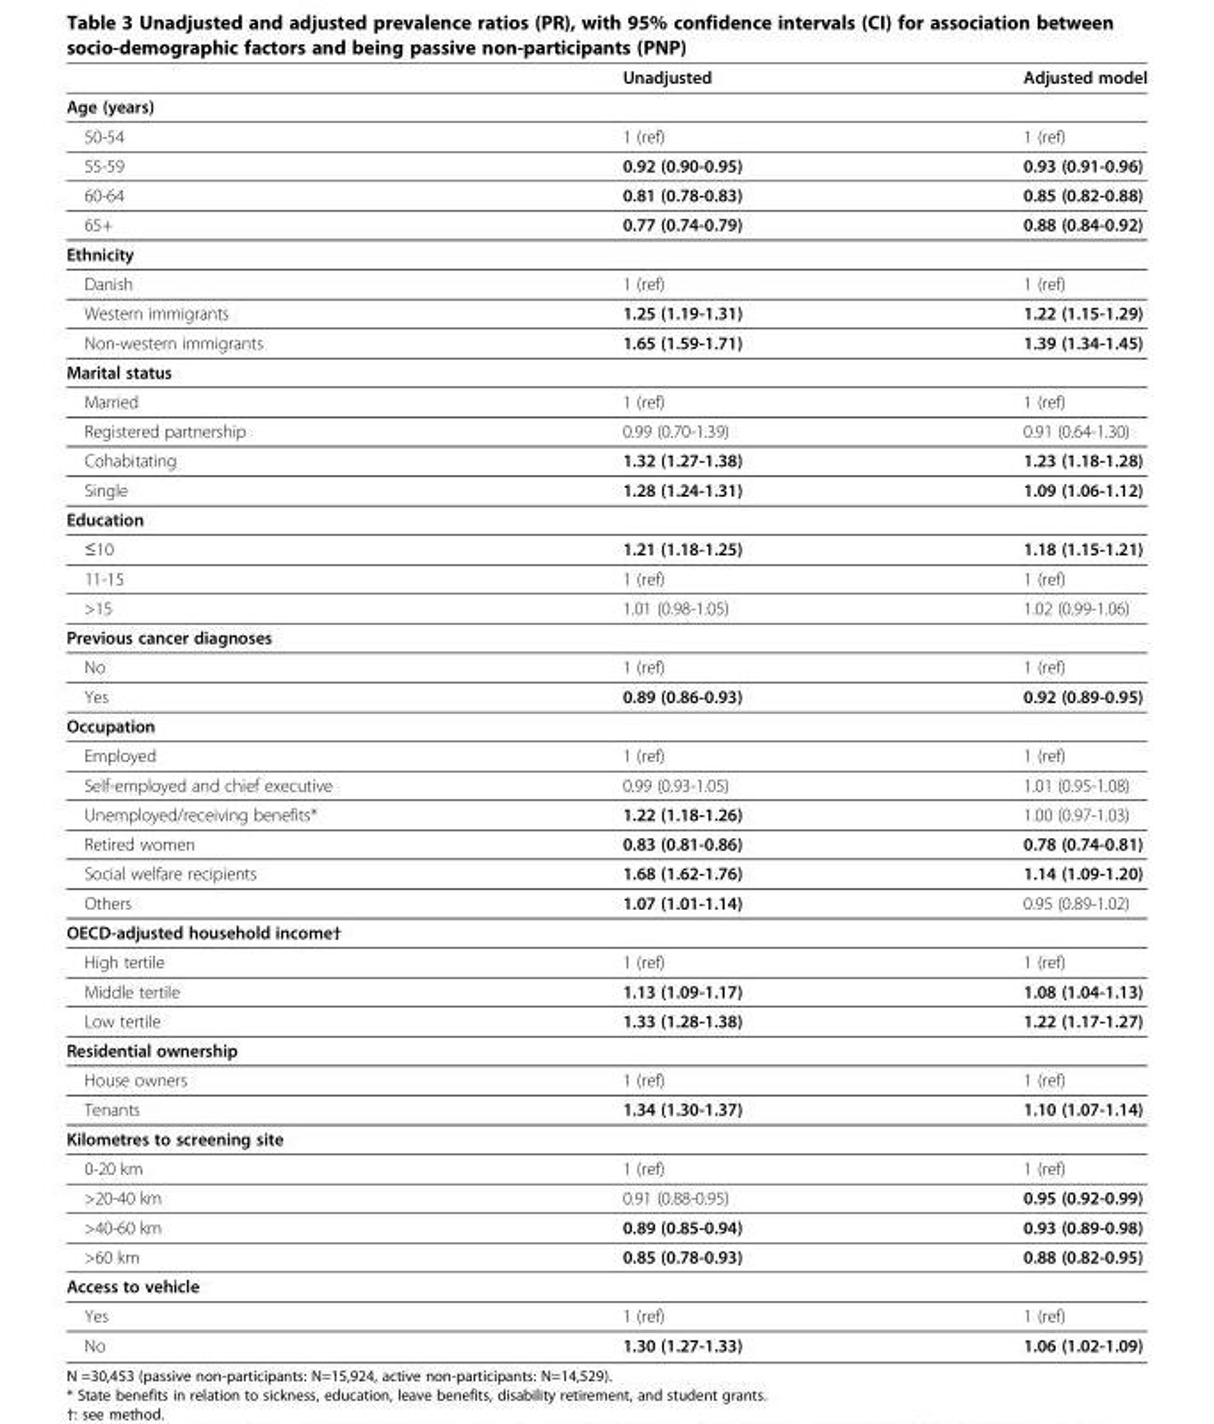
<table><thead><tr><td></td><td>Unadjusted</td><td>Adjusted model</td></tr></thead><tbody><tr><td colspan="3">Age (years)</td></tr><tr><td>50-54</td><td>1 (ref)</td><td>1 (ref)</td></tr><tr><td>55-59</td><td>0.92 (0.90-0.95)</td><td>0.93 (0.91-0.96)</td></tr><tr><td>60-64</td><td>0.81 (0.78-0.83)</td><td>0.85 (0.82-0.88)</td></tr><tr><td>65+</td><td>0.77 (0.74-0.79)</td><td>0.88 (0.84-0.92)</td></tr><tr><td colspan="3">Ethnicity</td></tr><tr><td>Danish</td><td>1 (ref)</td><td>1 (ref)</td></tr><tr><td>Western immigrants</td><td>1.25 (1.19-1.31)</td><td>1.22 (1.15-1.29)</td></tr><tr><td>Non-western immigrants</td><td>1.65 (1.59-1.71)</td><td>1.39 (1.34-1.45)</td></tr><tr><td colspan="3">Marital status</td></tr><tr><td>Married</td><td>1 (ref)</td><td>1 (ref)</td></tr><tr><td>Registered partnership</td><td>0.99 (0.70-1.39)</td><td>0.91 (0.64-1.30)</td></tr><tr><td>Cohabitating</td><td>1.32 (1.27-1.38)</td><td>1.23 (1.18-1.28)</td></tr><tr><td>Single</td><td>1.28 (1.24-1.31)</td><td>1.09 (1.06-1.12)</td></tr><tr><td colspan="3">Education</td></tr><tr><td>≤10</td><td>1.21 (1.18-1.25)</td><td>1.18 (1.15-1.21)</td></tr><tr><td>11-15</td><td>1 (ref)</td><td>1 (ref)</td></tr><tr><td>&gt;15</td><td>1.01 (0.98-1.05)</td><td>1.02 (0.99-1.06)</td></tr><tr><td colspan="3">Previous cancer diagnoses</td></tr><tr><td>No</td><td>1 (ref)</td><td>1 (ref)</td></tr><tr><td>Yes</td><td>0.89 (0.86-0.93)</td><td>0.92 (0.89-0.95)</td></tr><tr><td colspan="3">Occupation</td></tr><tr><td>Employed</td><td>1 (ref)</td><td>1 (ref)</td></tr><tr><td>Self-employed and chief executive</td><td>0.99 (0.93-1.05)</td><td>1.01 (0.95-1.08)</td></tr><tr><td>Unemployed/receiving benefits*</td><td>1.22 (1.18-1.26)</td><td>1.00 (0.97-1.03)</td></tr><tr><td>Retired women</td><td>0.83 (0.81-0.86)</td><td>0.78 (0.74-0.81)</td></tr><tr><td>Social welfare recipients</td><td>1.68 (1.62-1.76)</td><td>1.14 (1.09-1.20)</td></tr><tr><td>Others</td><td>1.07 (1.01-1.14)</td><td>0.95 (0.89-1.02)</td></tr><tr><td colspan="3">OECD-adjusted household income†</td></tr><tr><td>High tertile</td><td>1 (ref)</td><td>1 (ref)</td></tr><tr><td>Middle tertile</td><td>1.13 (1.09-1.17)</td><td>1.08 (1.04-1.13)</td></tr><tr><td>Low tertile</td><td>1.33 (1.28-1.38)</td><td>1.22 (1.17-1.27)</td></tr><tr><td colspan="3">Residential ownership</td></tr><tr><td>House owners</td><td>1 (ref)</td><td>1 (ref)</td></tr><tr><td>Tenants</td><td>1.34 (1.30-1.37)</td><td>1.10 (1.07-1.14)</td></tr><tr><td colspan="3">Kilometres to screening site</td></tr><tr><td>0-20 km</td><td>1 (ref)</td><td>1 (ref)</td></tr><tr><td>&gt;20-40 km</td><td>0.91 (0.88-0.95)</td><td>0.95 (0.92-0.99)</td></tr><tr><td>&gt;40-60 km</td><td>0.89 (0.85-0.94)</td><td>0.93 (0.89-0.98)</td></tr><tr><td>&gt;60 km</td><td>0.85 (0.78-0.93)</td><td>0.88 (0.82-0.95)</td></tr><tr><td colspan="3">Access to vehicle</td></tr><tr><td>Yes</td><td>1 (ref)</td><td>1 (ref)</td></tr><tr><td>No</td><td>1.30 (1.27-1.33)</td><td>1.06 (1.02-1.09)</td></tr></tbody></table>